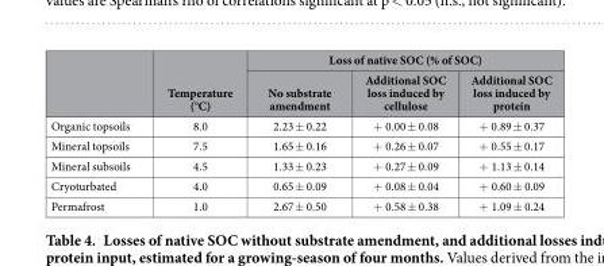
<table><thead><tr><td rowspan="2"></td><td rowspan="2">Temperature (°C)</td><td colspan="3">Loss of native SOC (% of SOC)</td></tr><tr><td>No substrate amendment</td><td>Additional SOC loss induced by cellulose</td><td>Additional SOC loss induced by protein</td></tr></thead><tbody><tr><td>Organic topsoils</td><td>8.0</td><td>2.23 ± 0.22</td><td>+ 0.00 ± 0.08</td><td>+ 0.89 ± 0.37</td></tr><tr><td>Mineral topsoils</td><td>7.5</td><td>1.65 ± 0.16</td><td>+ 0.26 ± 0.07</td><td>+ 0.55 ± 0.17</td></tr><tr><td>Mineral subsoils</td><td>4.5</td><td>1.33 ± 0.23</td><td>+ 0.27 ± 0.09</td><td>+ 1.13 ± 0.14</td></tr><tr><td>Cryoturbated</td><td>4.0</td><td>0.65 ± 0.09</td><td>+ 0.08 ± 0.04</td><td>+ 0.60 ± 0.09</td></tr><tr><td>Permafrost</td><td>1.0</td><td>2.67 ± 0.50</td><td>+ 0.58 ± 0.38</td><td>+ 1.09 ± 0.24</td></tr></tbody></table>